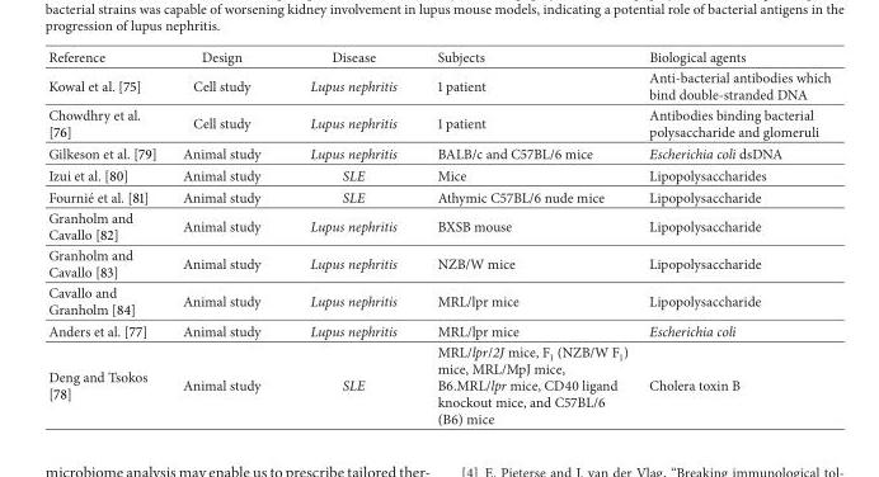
<table><thead><tr><td>Reference</td><td>Design</td><td>Disease</td><td>Subjects</td><td>Biological agents</td></tr></thead><tbody><tr><td>Kowal et al. [75]</td><td>Cell study</td><td>Lupus nephritis</td><td>1 patient</td><td>Anti-bacterial antibodies which bind double-stranded DNA</td></tr><tr><td>Chowdhry et al. [76]</td><td>Cell study</td><td>Lupus nephritis</td><td>1 patient</td><td>Antibodies binding bacterial polysaccharide and glomeruli</td></tr><tr><td>Gilkeson et al. [79]</td><td>Animal study</td><td>Lupus nephritis</td><td>BALB/c and C57BL/6 mice</td><td>Escherichia coli dsDNA</td></tr><tr><td>Izui et al. [80]</td><td>Animal study</td><td>SLE</td><td>Mice</td><td>Lipopolysaccharides</td></tr><tr><td>Fourni´e et al. [81]</td><td>Animal study</td><td>SLE</td><td>Athymic C57BL/6 nude mice</td><td>Lipopolysaccharide</td></tr><tr><td>Granholm and Cavallo [82]</td><td>Animal study</td><td>Lupus nephritis</td><td>BXSB mouse</td><td>Lipopolysaccharide</td></tr><tr><td>Granholm and Cavallo [83]</td><td>Animal study</td><td>Lupus nephritis</td><td>NZB/W mice</td><td>Lipopolysaccharide</td></tr><tr><td>Cavallo and Granholm [84]</td><td>Animal study</td><td>Lupus nephritis</td><td>MRL/lpr mice</td><td>Lipopolysaccharide</td></tr><tr><td>Anders et al. [77]</td><td>Animal study</td><td>Lupus nephritis</td><td>MRL/lpr mice</td><td>Escherichia coli</td></tr><tr><td>Deng and Tsokos [78]</td><td>Animal study</td><td>SLE</td><td>MRL/lpr/2J mice, F<sub>1</sub> (NZB/W F<sub>1</sub>) mice, MRL/MpJ mice, B6.MRL/lpr mice, CD40 ligand knockout mice, and C57BL/6 (B6) mice</td><td>Cholera toxin B</td></tr></tbody></table>